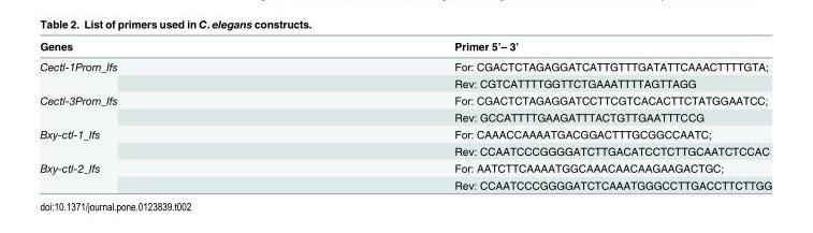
<table><thead><tr><td>Genes</td><td>Primer 5’– 3’</td></tr></thead><tbody><tr><td rowspan="2">Cectl-1Prom_Ifs</td><td>For: CGACTCTAGAGGATCATTGTTTGATATTCAAACTTTTGTA;</td></tr><tr><td>Rev: CGTCATTTTGGTTCTGAAATTTTAGTTAGG</td></tr><tr><td rowspan="2">Cectl-3Prom_Ifs</td><td>For: CGACTCTAGAGGATCCTTCGTCACACTTCTATGGAATCC;</td></tr><tr><td>Rev: GCCATTTTGAAGATTTACTGTTGAATTTCCG</td></tr><tr><td rowspan="2">Bxy-ctl-1_Ifs</td><td>For: CAAACCAAAATGACGGACTTTGCGGCCAATC;</td></tr><tr><td>Rev: CCAATCCCGGGGATCTTGACATCCTCTTGCAATCTCCAC</td></tr><tr><td rowspan="2">Bxy-ctl-2_Ifs</td><td>For: AATCTTCAAAATGGCAAACAACAAGAAGACTGC;</td></tr><tr><td>Rev: CCAATCCCGGGGATCTCAAATGGGCCTTGACCTTCTTGG</td></tr></tbody></table>